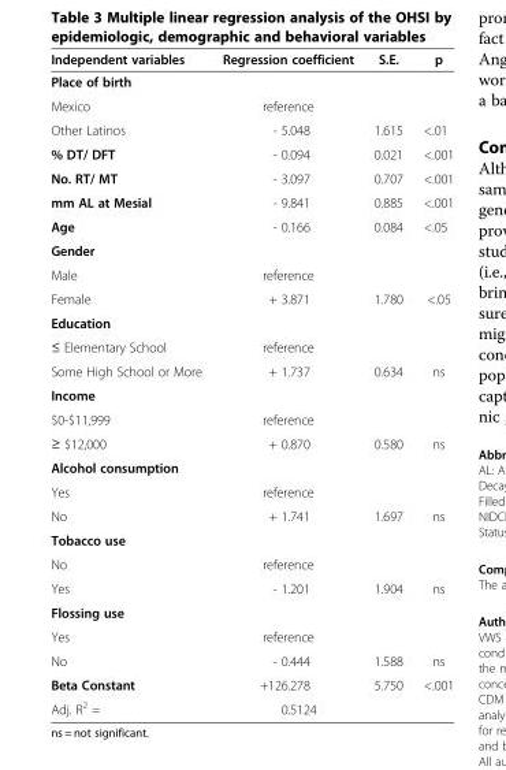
<table><thead><tr><td>Independent variables</td><td>Regression coefficient</td><td>S.E.</td><td>p</td></tr></thead><tbody><tr><td colspan="4">Place of birth</td></tr><tr><td>Mexico</td><td>reference</td><td></td><td></td></tr><tr><td>Other Latinos</td><td>- 5.048</td><td>1.615</td><td>&lt;.01</td></tr><tr><td>% DT/ DFT</td><td>- 0.094</td><td>0.021</td><td>&lt;.001</td></tr><tr><td>No. RT/ MT</td><td>- 3.097</td><td>0.707</td><td>&lt;.001</td></tr><tr><td>mm AL at Mesial</td><td>- 9.841</td><td>0.885</td><td>&lt;.001</td></tr><tr><td>Age</td><td>- 0.166</td><td>0.084</td><td>&lt;.05</td></tr><tr><td colspan="4">Gender</td></tr><tr><td>Male</td><td>reference</td><td></td><td></td></tr><tr><td>Female</td><td>+ 3.871</td><td>1.780</td><td>&lt;.05</td></tr><tr><td colspan="4">Education</td></tr><tr><td>≤ Elementary School</td><td>reference</td><td></td><td></td></tr><tr><td>Some High School or More</td><td>+ 1.737</td><td>0.634</td><td>ns</td></tr><tr><td colspan="4">Income</td></tr><tr><td>$0-$11,999</td><td>reference</td><td></td><td></td></tr><tr><td>≥ $12,000</td><td>+ 0.870</td><td>0.580</td><td>ns</td></tr><tr><td colspan="4">Alcohol consumption</td></tr><tr><td>Yes</td><td>reference</td><td></td><td></td></tr><tr><td>No</td><td>+ 1.741</td><td>1.697</td><td>ns</td></tr><tr><td colspan="4">Tobacco use</td></tr><tr><td>No</td><td>reference</td><td></td><td></td></tr><tr><td>Yes</td><td>- 1.201</td><td>1.904</td><td>ns</td></tr><tr><td colspan="4">Flossing use</td></tr><tr><td>Yes</td><td>reference</td><td></td><td></td></tr><tr><td>No</td><td>- 0.444</td><td>1.588</td><td>ns</td></tr><tr><td>Beta Constant</td><td>+126.278</td><td>5.750</td><td>&lt;.001</td></tr><tr><td>Adj. R<sup>2</sup> =</td><td>0.5124</td><td></td><td></td></tr></tbody></table>